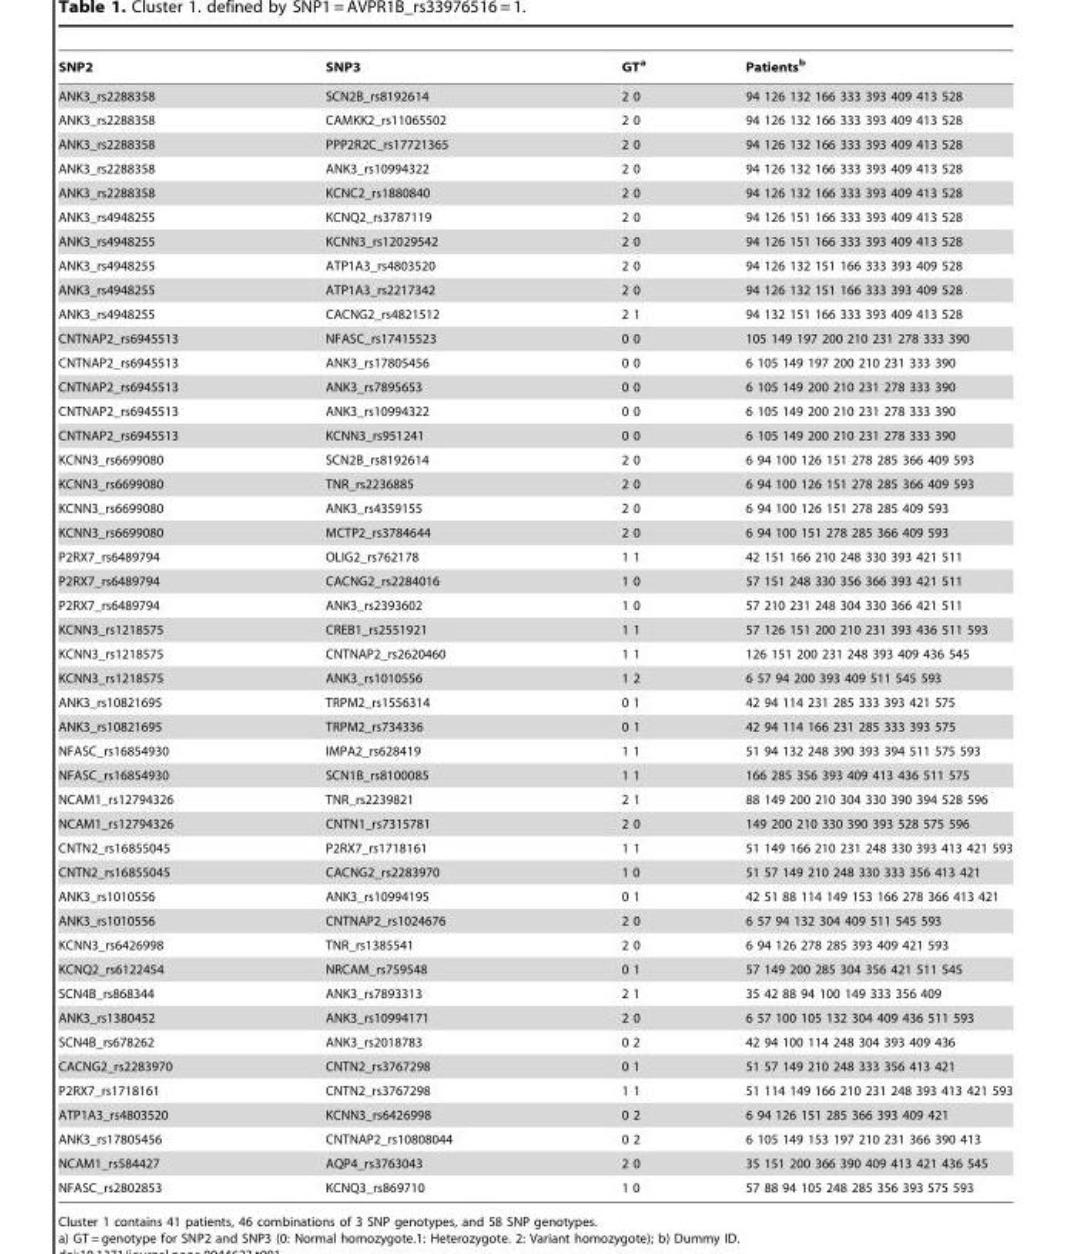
<table><thead><tr><td>SNP2</td><td>SNP3</td><td>GT<sup>a</sup></td><td>Patients<sup>b</sup></td></tr></thead><tbody><tr><td>ANK3_rs2288358</td><td>SCN2B_rs8192614</td><td>2 0</td><td>94 126 132 166 333 393 409 413 528</td></tr><tr><td>ANK3_rs2288358</td><td>CAMKK2_rs11065502</td><td>2 0</td><td>94 126 132 166 333 393 409 413 528</td></tr><tr><td>ANK3_rs2288358</td><td>PPP2R2C_rs17721365</td><td>2 0</td><td>94 126 132 166 333 393 409 413 528</td></tr><tr><td>ANK3_rs2288358</td><td>ANK3_rs10994322</td><td>2 0</td><td>94 126 132 166 333 393 409 413 528</td></tr><tr><td>ANK3_rs2288358</td><td>KCNC2_rs1880840</td><td>2 0</td><td>94 126 132 166 333 393 409 413 528</td></tr><tr><td>ANK3_rs4948255</td><td>KCNQ2_rs3787119</td><td>2 0</td><td>94 126 151 166 333 393 409 413 528</td></tr><tr><td>ANK3_rs4948255</td><td>KCNN3_rs12029542</td><td>2 0</td><td>94 126 151 166 333 393 409 413 528</td></tr><tr><td>ANK3_rs4948255</td><td>ATP1A3_rs4803520</td><td>2 0</td><td>94 126 132 151 166 333 393 409 528</td></tr><tr><td>ANK3_rs4948255</td><td>ATP1A3_rs2217342</td><td>2 0</td><td>94 126 132 151 166 333 393 409 528</td></tr><tr><td>ANK3_rs4948255</td><td>CACNG2_rs4821512</td><td>2 1</td><td>94 132 151 166 333 393 409 413 528</td></tr><tr><td>CNTNAP2_rs6945513</td><td>NFASC_rs17415523</td><td>0 0</td><td>105 149 197 200 210 231 278 333 390</td></tr><tr><td>CNTNAP2_rs6945513</td><td>ANK3_rs17805456</td><td>0 0</td><td>6 105 149 197 200 210 231 333 390</td></tr><tr><td>CNTNAP2_rs6945513</td><td>ANK3_rs7895653</td><td>0 0</td><td>6 105 149 200 210 231 278 333 390</td></tr><tr><td>CNTNAP2_rs6945513</td><td>ANK3_rs10994322</td><td>0 0</td><td>6 105 149 200 210 231 278 333 390</td></tr><tr><td>CNTNAP2_rs6945513</td><td>KCNN3_rs951241</td><td>0 0</td><td>6 105 149 200 210 231 278 333 390</td></tr><tr><td>KCNN3_rs6699080</td><td>SCN2B_rs8192614</td><td>2 0</td><td>6 94 100 126 151 278 285 366 409 593</td></tr><tr><td>KCNN3_rs6699080</td><td>TNR_rs2236885</td><td>2 0</td><td>6 94 100 126 151 278 285 366 409 593</td></tr><tr><td>KCNN3_rs6699080</td><td>ANK3_rs4359155</td><td>2 0</td><td>6 94 100 126 151 278 285 409 593</td></tr><tr><td>KCNN3_rs6699080</td><td>MCTP2_rs3784644</td><td>2 0</td><td>6 94 100 151 278 285 366 409 593</td></tr><tr><td>P2RX7_rs6489794</td><td>OLIG2_rs762178</td><td>1 1</td><td>42 151 166 210 248 330 393 421 511</td></tr><tr><td>P2RX7_rs6489794</td><td>CACNG2_rs2284016</td><td>1 0</td><td>57 151 248 330 356 366 393 421 511</td></tr><tr><td>P2RX7_rs6489794</td><td>ANK3_rs2393602</td><td>1 0</td><td>57 210 231 248 304 330 366 421 511</td></tr><tr><td>KCNN3_rs1218575</td><td>CREB1_rs2551921</td><td>1 1</td><td>57 126 151 200 210 231 393 436 511 593</td></tr><tr><td>KCNN3_rs1218575</td><td>CNTNAP2_rs2620460</td><td>1 1</td><td>126 151 200 231 248 393 409 436 545</td></tr><tr><td>KCNN3_rs1218575</td><td>ANK3_rs1010556</td><td>1 2</td><td>6 57 94 200 393 409 511 545 593</td></tr><tr><td>ANK3_rs10821695</td><td>TRPM2_rs1556314</td><td>0 1</td><td>42 94 114 231 285 333 393 421 575</td></tr><tr><td>ANK3_rs10821695</td><td>TRPM2_rs734336</td><td>0 1</td><td>42 94 114 166 231 285 333 393 575</td></tr><tr><td>NFASC_rs16854930</td><td>IMPA2_rs628419</td><td>1 1</td><td>51 94 132 248 390 393 394 511 575 593</td></tr><tr><td>NFASC_rs16854930</td><td>SCN1B_rs8100085</td><td>1 1</td><td>166 285 356 393 409 413 436 511 575</td></tr><tr><td>NCAM1_rs12794326</td><td>TNR_rs2239821</td><td>2 1</td><td>88 149 200 210 304 330 390 394 528 596</td></tr><tr><td>NCAM1_rs12794326</td><td>CNTN1_rs7315781</td><td>2 0</td><td>149 200 210 330 390 393 528 575 596</td></tr><tr><td>CNTN2_rs16855045</td><td>P2RX7_rs1718161</td><td>1 1</td><td>51 149 166 210 231 248 330 393 413 421 593</td></tr><tr><td>CNTN2_rs16855045</td><td>CACNG2_rs2283970</td><td>1 0</td><td>51 57 149 210 248 330 333 356 413 421</td></tr><tr><td>ANK3_rs1010556</td><td>ANK3_rs10994195</td><td>0 1</td><td>42 51 88 114 149 153 166 278 366 413 421</td></tr><tr><td>ANK3_rs1010556</td><td>CNTNAP2_rs1024676</td><td>2 0</td><td>6 57 94 132 304 409 511 545 593</td></tr><tr><td>KCNN3_rs6426998</td><td>TNR_rs1385541</td><td>2 0</td><td>6 94 126 278 285 393 409 421 593</td></tr><tr><td>KCNQ2_rs6122454</td><td>NRCAM_rs759548</td><td>0 1</td><td>57 149 200 285 304 356 421 511 545</td></tr><tr><td>SCN4B_rs868344</td><td>ANK3_rs7893313</td><td>2 1</td><td>35 42 88 94 100 149 333 356 409</td></tr><tr><td>ANK3_rs1380452</td><td>ANK3_rs10994171</td><td>2 0</td><td>6 57 100 105 132 304 409 436 511 593</td></tr><tr><td>SCN4B_rs678262</td><td>ANK3_rs2018783</td><td>0 2</td><td>42 94 100 114 248 304 393 409 436</td></tr><tr><td>CACNG2_rs2283970</td><td>CNTN2_rs3767298</td><td>0 1</td><td>51 57 149 210 248 333 356 413 421</td></tr><tr><td>P2RX7_rs1718161</td><td>CNTN2_rs3767298</td><td>1 1</td><td>51 114 149 166 210 231 248 393 413 421 593</td></tr><tr><td>ATP1A3_rs4803520</td><td>KCNN3_rs6426998</td><td>0 2</td><td>6 94 126 151 285 366 393 409 421</td></tr><tr><td>ANK3_rs17805456</td><td>CNTNAP2_rs10808044</td><td>0 2</td><td>6 105 149 153 197 210 231 366 390 413</td></tr><tr><td>NCAM1_rs584427</td><td>AQP4_rs3763043</td><td>2 0</td><td>35 151 200 366 390 409 413 421 436 545</td></tr><tr><td>NFASC_rs2802853</td><td>KCNQ3_rs869710</td><td>1 0</td><td>57 88 94 105 248 285 356 393 575 593</td></tr></tbody></table>